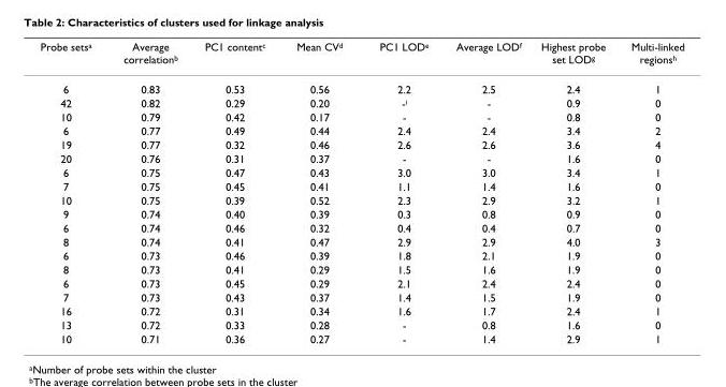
<table><thead><tr><td>Probe sets<sup>a</sup></td><td>Average correlation<sup>b</sup></td><td>PC1 content<sup>c</sup></td><td>Mean CV<sup>d</sup></td><td>PC1 LOD<sup>e</sup></td><td>Average LOD<sup>f</sup></td><td>Highest probe set LOD<sup>g</sup></td><td>Multi-linked regions<sup>h</sup></td></tr></thead><tbody><tr><td>6</td><td>0.83</td><td>0.53</td><td>0.56</td><td>2.2</td><td>2.5</td><td>2.4</td><td>1</td></tr><tr><td>42</td><td>0.82</td><td>0.29</td><td>0.20</td><td>-<sup>i</sup></td><td>-</td><td>0.9</td><td>0</td></tr><tr><td>10</td><td>0.79</td><td>0.42</td><td>0.17</td><td>-</td><td>-</td><td>0.8</td><td>0</td></tr><tr><td>6</td><td>0.77</td><td>0.49</td><td>0.44</td><td>2.4</td><td>2.4</td><td>3.4</td><td>2</td></tr><tr><td>19</td><td>0.77</td><td>0.32</td><td>0.46</td><td>2.6</td><td>2.6</td><td>3.6</td><td>4</td></tr><tr><td>20</td><td>0.76</td><td>0.31</td><td>0.37</td><td>-</td><td>-</td><td>1.6</td><td>0</td></tr><tr><td>6</td><td>0.75</td><td>0.47</td><td>0.43</td><td>3.0</td><td>3.0</td><td>3.4</td><td>1</td></tr><tr><td>7</td><td>0.75</td><td>0.45</td><td>0.41</td><td>1.1</td><td>1.4</td><td>1.6</td><td>0</td></tr><tr><td>10</td><td>0.75</td><td>0.39</td><td>0.52</td><td>2.3</td><td>2.9</td><td>3.2</td><td>1</td></tr><tr><td>9</td><td>0.74</td><td>0.40</td><td>0.39</td><td>0.3</td><td>0.8</td><td>0.9</td><td>0</td></tr><tr><td>6</td><td>0.74</td><td>0.46</td><td>0.32</td><td>0.4</td><td>0.4</td><td>0.7</td><td>0</td></tr><tr><td>8</td><td>0.74</td><td>0.41</td><td>0.47</td><td>2.9</td><td>2.9</td><td>4.0</td><td>3</td></tr><tr><td>6</td><td>0.73</td><td>0.46</td><td>0.39</td><td>1.8</td><td>2.1</td><td>1.9</td><td>0</td></tr><tr><td>8</td><td>0.73</td><td>0.41</td><td>0.29</td><td>1.5</td><td>1.6</td><td>1.9</td><td>0</td></tr><tr><td>6</td><td>0.73</td><td>0.45</td><td>0.29</td><td>2.1</td><td>2.4</td><td>2.4</td><td>0</td></tr><tr><td>7</td><td>0.73</td><td>0.43</td><td>0.37</td><td>1.4</td><td>1.5</td><td>1.9</td><td>0</td></tr><tr><td>16</td><td>0.72</td><td>0.31</td><td>0.34</td><td>1.6</td><td>1.7</td><td>2.4</td><td>1</td></tr><tr><td>13</td><td>0.72</td><td>0.33</td><td>0.28</td><td>-</td><td>0.8</td><td>1.6</td><td>0</td></tr><tr><td>10</td><td>0.71</td><td>0.36</td><td>0.27</td><td>-</td><td>1.4</td><td>2.9</td><td>1</td></tr></tbody></table>